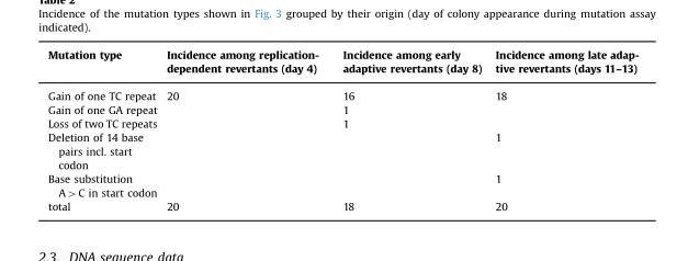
<table><thead><tr><td>Mutation type</td><td>Incidence among replication- dependent revertants (day 4)</td><td>Incidence among early adaptive revertants (day 8)</td><td>Incidence among late adap- tive revertants (days 11–13)</td></tr></thead><tbody><tr><td>Gain of one TC repeat</td><td>20</td><td>16</td><td>18</td></tr><tr><td>Gain of one GA repeat</td><td></td><td>1</td><td></td></tr><tr><td>Loss of two TC repeats</td><td></td><td>1</td><td></td></tr><tr><td>Deletion of 14 base pairs incl. start codon</td><td></td><td></td><td>1</td></tr><tr><td>Base substitution A&gt;C in start codon</td><td></td><td></td><td>1</td></tr><tr><td>total</td><td>20</td><td>18</td><td>20</td></tr></tbody></table>